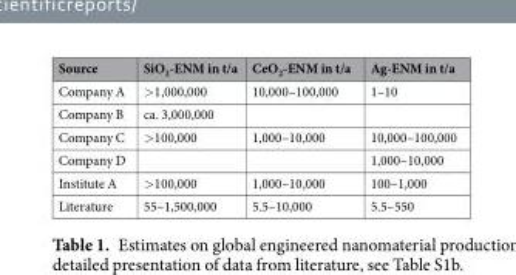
<table><thead><tr><td>Source</td><td>SiO<sub>2</sub>-ENM in t/a</td><td>CeO<sub>2</sub>-ENM in t/a</td><td>Ag-ENM in t/a</td></tr></thead><tbody><tr><td>Company A</td><td>&gt;1,000,000</td><td>10,000–100,000</td><td>1–10</td></tr><tr><td>Company B</td><td>ca. 3,000,000</td><td></td><td></td></tr><tr><td>Company C</td><td>&gt;100,000</td><td>1,000–10,000</td><td>10,000–100,000</td></tr><tr><td>Company D</td><td></td><td></td><td>1,000–10,000</td></tr><tr><td>Institute A</td><td>&gt;100,000</td><td>1,000–10,000</td><td>100–1,000</td></tr><tr><td>Literature</td><td>55–1,500,000</td><td>5.5–10,000</td><td>5.5–550</td></tr></tbody></table>